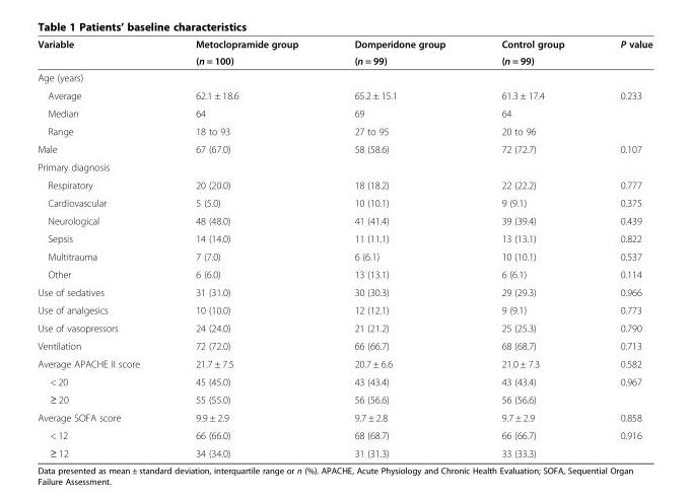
<table><thead><tr><td rowspan="2">Variable</td><td rowspan="2">Metoclopramide group (n = 100)</td><td rowspan="2">Domperidone group (n = 99)</td><td rowspan="2">Control group (n = 99)</td><td rowspan="2">P value</td></tr><tr></tr></thead><tbody><tr><td colspan="5">Age (years)</td></tr><tr><td>Average</td><td>62.1 ± 18.6</td><td>65.2 ± 15.1</td><td>61.3 ± 17.4</td><td>0.233</td></tr><tr><td>Median</td><td>64</td><td>69</td><td>64</td><td></td></tr><tr><td>Range</td><td>18 to 93</td><td>27 to 95</td><td>20 to 96</td><td></td></tr><tr><td>Male</td><td>67 (67.0)</td><td>58 (58.6)</td><td>72 (72.7)</td><td>0.107</td></tr><tr><td colspan="5">Primary diagnosis</td></tr><tr><td>Respiratory</td><td>20 (20.0)</td><td>18 (18.2)</td><td>22 (22.2)</td><td>0.777</td></tr><tr><td>Cardiovascular</td><td>5 (5.0)</td><td>10 (10.1)</td><td>9 (9.1)</td><td>0.375</td></tr><tr><td>Neurological</td><td>48 (48.0)</td><td>41 (41.4)</td><td>39 (39.4)</td><td>0.439</td></tr><tr><td>Sepsis</td><td>14 (14.0)</td><td>11 (11.1)</td><td>13 (13.1)</td><td>0.822</td></tr><tr><td>Multitrauma</td><td>7 (7.0)</td><td>6 (6.1)</td><td>10 (10.1)</td><td>0.537</td></tr><tr><td>Other</td><td>6 (6.0)</td><td>13 (13.1)</td><td>6 (6.1)</td><td>0.114</td></tr><tr><td>Use of sedatives</td><td>31 (31.0)</td><td>30 (30.3)</td><td>29 (29.3)</td><td>0.966</td></tr><tr><td>Use of analgesics</td><td>10 (10.0)</td><td>12 (12.1)</td><td>9 (9.1)</td><td>0.773</td></tr><tr><td>Use of vasopressors</td><td>24 (24.0)</td><td>21 (21.2)</td><td>25 (25.3)</td><td>0.790</td></tr><tr><td>Ventilation</td><td>72 (72.0)</td><td>66 (66.7)</td><td>68 (68.7)</td><td>0.713</td></tr><tr><td>Average APACHE II score</td><td>21.7 ± 7.5</td><td>20.7 ± 6.6</td><td>21.0 ± 7.3</td><td>0.582</td></tr><tr><td>&lt; 20</td><td>45 (45.0)</td><td>43 (43.4)</td><td>43 (43.4)</td><td>0.967</td></tr><tr><td>≥ 20</td><td>55 (55.0)</td><td>56 (56.6)</td><td>56 (56.6)</td><td></td></tr><tr><td>Average SOFA score</td><td>9.9 ± 2.9</td><td>9.7 ± 2.8</td><td>9.7 ± 2.9</td><td>0.858</td></tr><tr><td>&lt; 12</td><td>66 (66.0)</td><td>68 (68.7)</td><td>66 (66.7)</td><td>0.916</td></tr><tr><td>≥ 12</td><td>34 (34.0)</td><td>31 (31.3)</td><td>33 (33.3)</td><td></td></tr></tbody></table>